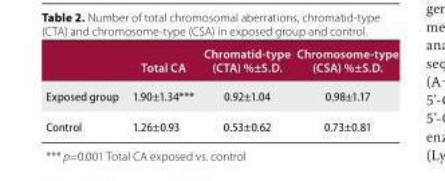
<table><thead><tr><td></td><td>Total CA</td><td>Chromatid-type (CTA) %±S.D.</td><td>Chromosome-type (CSA) %±S.D.</td></tr></thead><tbody><tr><td>Exposed group</td><td>1.90±1.34***</td><td>0.92±1.04</td><td>0.98±1.17</td></tr><tr><td>Control</td><td>1.26±0.93</td><td>0.53±0.62</td><td>0.73±0.81</td></tr></tbody></table>